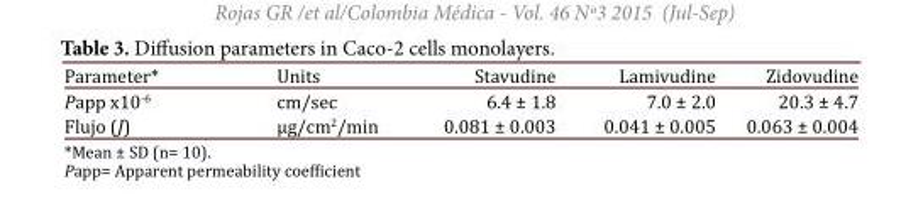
<table><thead><tr><td>Parameter*</td><td>Units</td><td>Stavudine</td><td>Lamivudine</td><td>Zidovudine</td></tr></thead><tbody><tr><td>Papp x10<sup>-6</sup></td><td>cm/sec</td><td>6.4 ± 1.8</td><td>7.0 ± 2.0</td><td>20.3 ± 4.7</td></tr><tr><td>Flujo (J)</td><td>µg/cm<sup>2</sup>/min</td><td>0.081 ± 0.003</td><td>0.041 ± 0.005</td><td>0.063 ± 0.004</td></tr></tbody></table>